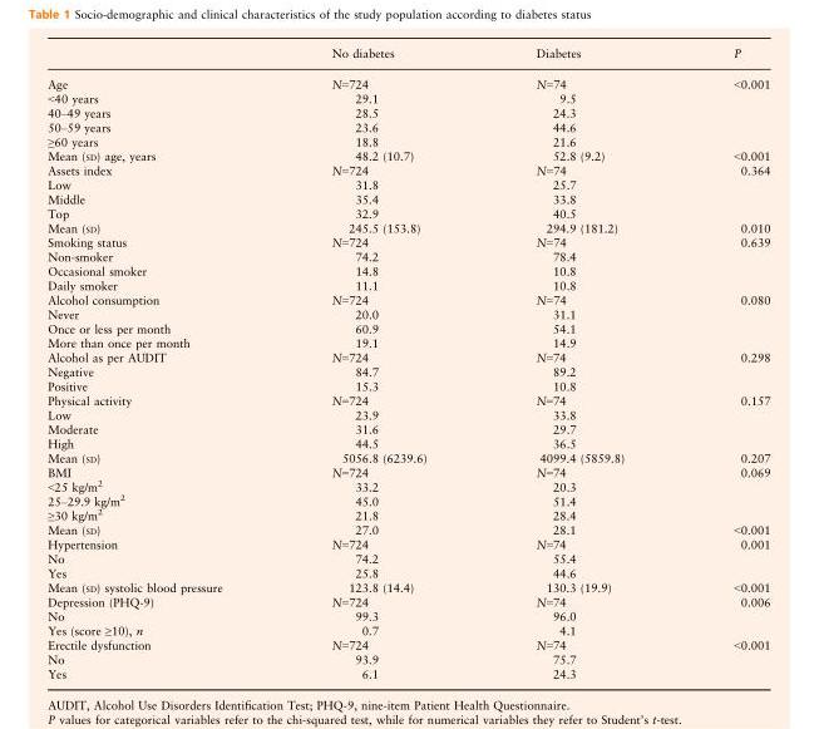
<table><thead><tr><td></td><td>No diabetes</td><td>Diabetes</td><td>P</td></tr></thead><tbody><tr><td>Age</td><td>N=724</td><td>N=74</td><td>&lt;0.001</td></tr><tr><td>&lt;40 years</td><td>29.1</td><td>9.5</td><td></td></tr><tr><td>40–49 years</td><td>28.5</td><td>24.3</td><td></td></tr><tr><td>50–59 years</td><td>23.6</td><td>44.6</td><td></td></tr><tr><td>≥60 years</td><td>18.8</td><td>21.6</td><td></td></tr><tr><td>Mean (SD) age, years</td><td>48.2 (10.7)</td><td>52.8 (9.2)</td><td>&lt;0.001</td></tr><tr><td>Assets index</td><td>N=724</td><td>N=74</td><td>0.364</td></tr><tr><td>Low</td><td>31.8</td><td>25.7</td><td></td></tr><tr><td>Middle</td><td>35.4</td><td>33.8</td><td></td></tr><tr><td>Top</td><td>32.9</td><td>40.5</td><td></td></tr><tr><td>Mean (SD)</td><td>245.5 (153.8)</td><td>294.9 (181.2)</td><td>0.010</td></tr><tr><td>Smoking status</td><td>N=724</td><td>N=74</td><td>0.639</td></tr><tr><td>Non-smoker</td><td>74.2</td><td>78.4</td><td></td></tr><tr><td>Occasional smoker</td><td>14.8</td><td>10.8</td><td></td></tr><tr><td>Daily smoker</td><td>11.1</td><td>10.8</td><td></td></tr><tr><td>Alcohol consumption</td><td>N=724</td><td>N=74</td><td>0.080</td></tr><tr><td>Never</td><td>20.0</td><td>31.1</td><td></td></tr><tr><td>Once or less per month</td><td>60.9</td><td>54.1</td><td></td></tr><tr><td>More than once per month</td><td>19.1</td><td>14.9</td><td></td></tr><tr><td>Alcohol as per AUDIT</td><td>N=724</td><td>N=74</td><td>0.298</td></tr><tr><td>Negative</td><td>84.7</td><td>89.2</td><td></td></tr><tr><td>Positive</td><td>15.3</td><td>10.8</td><td></td></tr><tr><td>Physical activity</td><td>N=724</td><td>N=74</td><td>0.157</td></tr><tr><td>Low</td><td>23.9</td><td>33.8</td><td></td></tr><tr><td>Moderate</td><td>31.6</td><td>29.7</td><td></td></tr><tr><td>High</td><td>44.5</td><td>36.5</td><td></td></tr><tr><td>Mean (SD)</td><td>5056.8 (6239.6)</td><td>4099.4 (5859.8)</td><td>0.207</td></tr><tr><td>BMI</td><td>N=724</td><td>N=74</td><td>0.069</td></tr><tr><td>&lt;25 kg/m<sup>2</sup></td><td>33.2</td><td>20.3</td><td></td></tr><tr><td>25–29.9 kg/m<sup>2</sup></td><td>45.0</td><td>51.4</td><td></td></tr><tr><td>≥30 kg/m<sup>2</sup></td><td>21.8</td><td>28.4</td><td></td></tr><tr><td>Mean (SD)</td><td>27.0</td><td>28.1</td><td>&lt;0.001</td></tr><tr><td>Hypertension</td><td>N=724</td><td>N=74</td><td>0.001</td></tr><tr><td>No</td><td>74.2</td><td>55.4</td><td></td></tr><tr><td>Yes</td><td>25.8</td><td>44.6</td><td></td></tr><tr><td>Mean (SD) systolic blood pressure</td><td>123.8 (14.4)</td><td>130.3 (19.9)</td><td>&lt;0.001</td></tr><tr><td>Depression (PHQ-9)</td><td>N=724</td><td>N=74</td><td>0.006</td></tr><tr><td>No</td><td>99.3</td><td>96.0</td><td></td></tr><tr><td>Yes (score ≥10), n</td><td>0.7</td><td>4.1</td><td></td></tr><tr><td>Erectile dysfunction</td><td>N=724</td><td>N=74</td><td>&lt;0.001</td></tr><tr><td>No</td><td>93.9</td><td>75.7</td><td></td></tr><tr><td>Yes</td><td>6.1</td><td>24.3</td><td></td></tr></tbody></table>